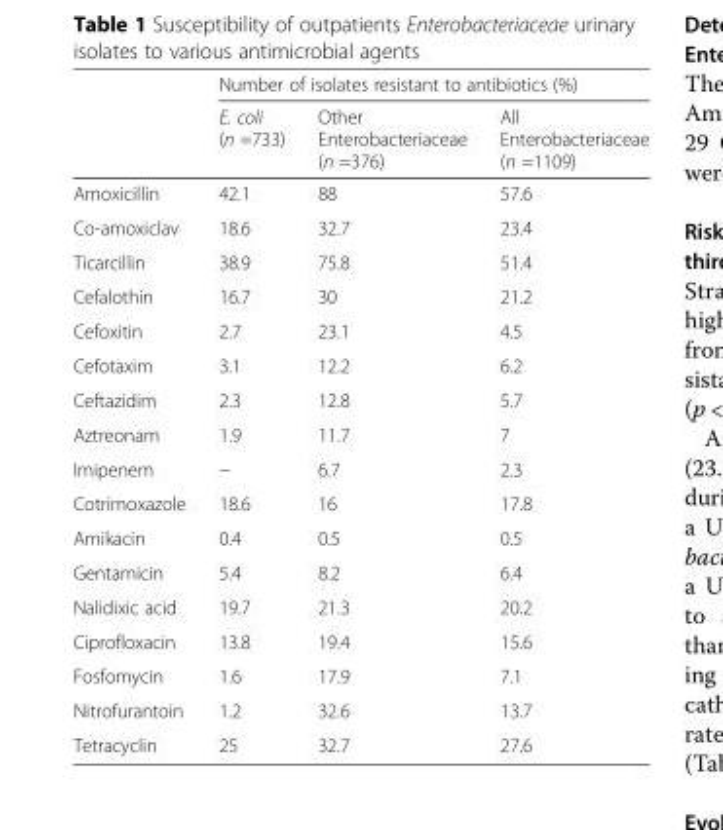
<table><thead><tr><td rowspan="2"></td><td colspan="3">Number of isolates resistant to antibiotics (%)</td></tr><tr><td>E. coli (n =733)</td><td>Other Enterobacteriaceae (n =376)</td><td>All Enterobacteriaceae (n =1109)</td></tr></thead><tbody><tr><td>Amoxicillin</td><td>42.1</td><td>88</td><td>57.6</td></tr><tr><td>Co-amoxiclav</td><td>18.6</td><td>32.7</td><td>23.4</td></tr><tr><td>Ticarcillin</td><td>38.9</td><td>75.8</td><td>51.4</td></tr><tr><td>Cefalothin</td><td>16.7</td><td>30</td><td>21.2</td></tr><tr><td>Cefoxitin</td><td>2.7</td><td>23.1</td><td>4.5</td></tr><tr><td>Cefotaxim</td><td>3.1</td><td>12.2</td><td>6.2</td></tr><tr><td>Ceftazidim</td><td>2.3</td><td>12.8</td><td>5.7</td></tr><tr><td>Aztreonam</td><td>1.9</td><td>11.7</td><td>7</td></tr><tr><td>Imipenem</td><td>−</td><td>6.7</td><td>2.3</td></tr><tr><td>Cotrimoxazole</td><td>18.6</td><td>16</td><td>17.8</td></tr><tr><td>Amikacin</td><td>0.4</td><td>0.5</td><td>0.5</td></tr><tr><td>Gentamicin</td><td>5.4</td><td>8.2</td><td>6.4</td></tr><tr><td>Nalidixic acid</td><td>19.7</td><td>21.3</td><td>20.2</td></tr><tr><td>Ciprofloxacin</td><td>13.8</td><td>19.4</td><td>15.6</td></tr><tr><td>Fosfomycin</td><td>1.6</td><td>17.9</td><td>7.1</td></tr><tr><td>Nitrofurantoin</td><td>1.2</td><td>32.6</td><td>13.7</td></tr><tr><td>Tetracyclin</td><td>25</td><td>32.7</td><td>27.6</td></tr></tbody></table>